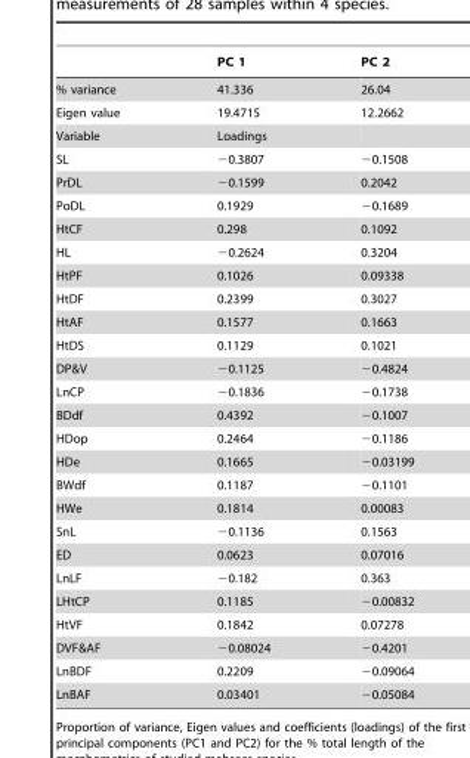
<table><thead><tr><td></td><td>PC 1</td><td>PC 2</td></tr></thead><tbody><tr><td>% variance</td><td>41.336</td><td>26.04</td></tr><tr><td>Eigen value</td><td>19.4715</td><td>12.2662</td></tr><tr><td>Variable</td><td>Loadings</td><td></td></tr><tr><td>SL</td><td>−0.3807</td><td>−0.1508</td></tr><tr><td>PrDL</td><td>−0.1599</td><td>0.2042</td></tr><tr><td>PoDL</td><td>0.1929</td><td>−0.1689</td></tr><tr><td>HtCF</td><td>0.298</td><td>0.1092</td></tr><tr><td>HL</td><td>−0.2624</td><td>0.3204</td></tr><tr><td>HtPF</td><td>0.1026</td><td>0.09338</td></tr><tr><td>HtDF</td><td>0.2399</td><td>0.3027</td></tr><tr><td>HtAF</td><td>0.1577</td><td>0.1663</td></tr><tr><td>HtDS</td><td>0.1129</td><td>0.1021</td></tr><tr><td>DP&amp;V</td><td>−0.1125</td><td>−0.4824</td></tr><tr><td>LnCP</td><td>−0.1836</td><td>−0.1738</td></tr><tr><td>BDdf</td><td>0.4392</td><td>−0.1007</td></tr><tr><td>HDop</td><td>0.2464</td><td>−0.1186</td></tr><tr><td>HDe</td><td>0.1665</td><td>−0.03199</td></tr><tr><td>BWdf</td><td>0.1187</td><td>−0.1101</td></tr><tr><td>HWe</td><td>0.1814</td><td>0.00083</td></tr><tr><td>SnL</td><td>−0.1136</td><td>0.1563</td></tr><tr><td>ED</td><td>0.0623</td><td>0.07016</td></tr><tr><td>LnLF</td><td>−0.182</td><td>0.363</td></tr><tr><td>LHtCP</td><td>0.1185</td><td>−0.00832</td></tr><tr><td>HtVF</td><td>0.1842</td><td>0.07278</td></tr><tr><td>DVF&amp;AF</td><td>−0.08024</td><td>−0.4201</td></tr><tr><td>LnBDF</td><td>0.2209</td><td>−0.09064</td></tr><tr><td>LnBAF</td><td>0.03401</td><td>−0.05084</td></tr></tbody></table>